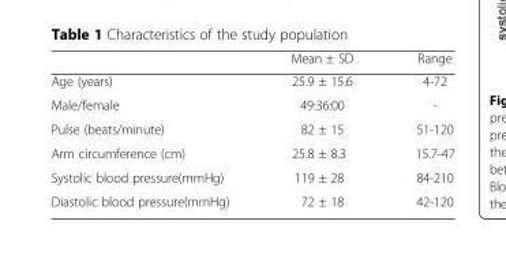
<table><thead><tr><td></td><td>Mean ± SD</td><td>Range</td></tr></thead><tbody><tr><td>Age (years)</td><td>25.9 ± 15.6</td><td>4-72</td></tr><tr><td>Male/female</td><td>49:36:00</td><td>-</td></tr><tr><td>Pulse (beats/minute)</td><td>82 ± 15</td><td>51-120</td></tr><tr><td>Arm circumference (cm)</td><td>25.8 ± 8.3</td><td>15.7-47</td></tr><tr><td>Systolic blood pressure(mmHg)</td><td>119 ± 28</td><td>84-210</td></tr><tr><td>Diastolic blood pressure(mmHg)</td><td>72 ± 18</td><td>42-120</td></tr></tbody></table>